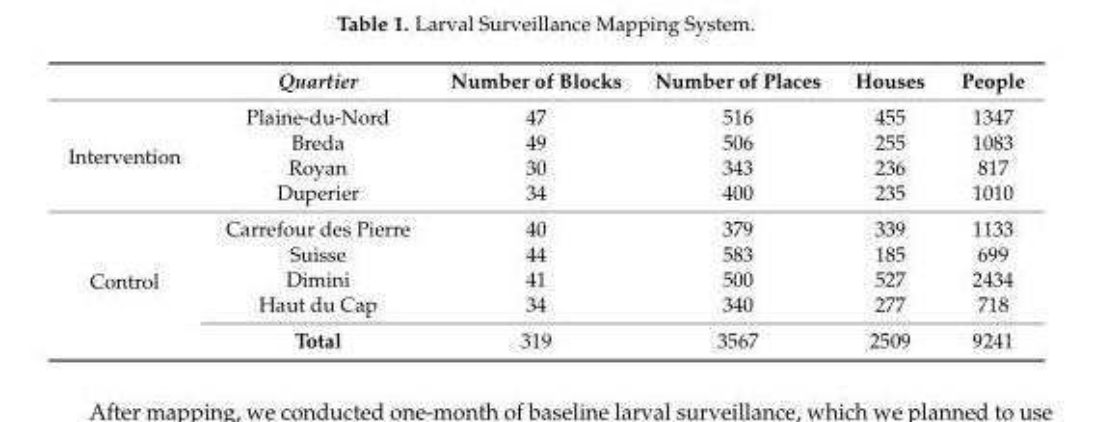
<table><thead><tr><td></td><td>Quartier</td><td>Number of Blocks</td><td>Number of Places</td><td>Houses</td><td>People</td></tr></thead><tbody><tr><td rowspan="4">Intervention</td><td>Plaine-du-Nord</td><td>47</td><td>516</td><td>455</td><td>1347</td></tr><tr><td>Breda</td><td>49</td><td>506</td><td>255</td><td>1083</td></tr><tr><td>Royan</td><td>30</td><td>343</td><td>236</td><td>817</td></tr><tr><td>Duperier</td><td>34</td><td>400</td><td>235</td><td>1010</td></tr><tr><td rowspan="5">Control</td><td>Carrefour des Pierre</td><td>40</td><td>379</td><td>339</td><td>1133</td></tr><tr><td>Suisse</td><td>44</td><td>583</td><td>185</td><td>699</td></tr><tr><td>Dimini</td><td>41</td><td>500</td><td>527</td><td>2434</td></tr><tr><td>Haut du Cap</td><td>34</td><td>340</td><td>277</td><td>718</td></tr><tr><td>Total</td><td>319</td><td>3567</td><td>2509</td><td>9241</td></tr></tbody></table>